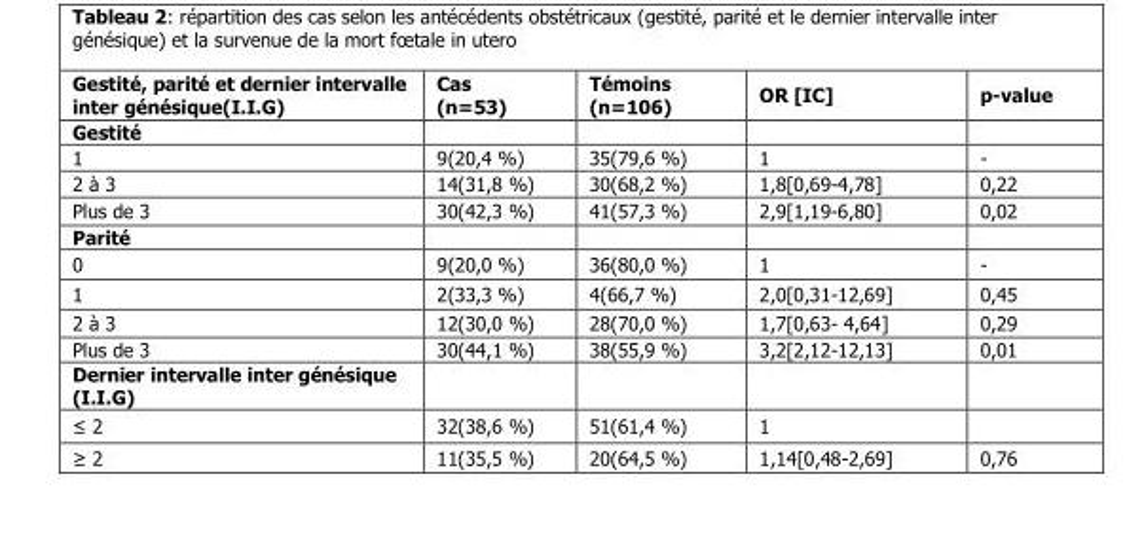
<table><thead><tr><td>Gestité, parité et dernier intervalle inter génésique(I.I.G)</td><td>Cas (n=53)</td><td>Témoins (n=106)</td><td>OR [IC]</td><td>p-value</td></tr></thead><tbody><tr><td colspan="5">Gestité</td></tr><tr><td>1</td><td>9(20,4 %)</td><td>35(79,6 %)</td><td>1</td><td>-</td></tr><tr><td>2 à 3</td><td>14(31,8 %)</td><td>30(68,2 %)</td><td>1,8[0,69-4,78]</td><td>0,22</td></tr><tr><td>Plus de 3</td><td>30(42,3 %)</td><td>41(57,3 %)</td><td>2,9[1,19-6,80]</td><td>0,02</td></tr><tr><td colspan="5">Parité</td></tr><tr><td>0</td><td>9(20,0 %)</td><td>36(80,0 %)</td><td>1</td><td>-</td></tr><tr><td>1</td><td>2(33,3 %)</td><td>4(66,7 %)</td><td>2,0[0,31-12,69]</td><td>0,45</td></tr><tr><td>2 à 3</td><td>12(30,0 %)</td><td>28(70,0 %)</td><td>1,7[0,63- 4,64]</td><td>0,29</td></tr><tr><td>Plus de 3</td><td>30(44,1 %)</td><td>38(55,9 %)</td><td>3,2[2,12-12,13]</td><td>0,01</td></tr><tr><td colspan="5">Dernier intervalle inter génésique (I.I.G)</td></tr><tr><td>≤ 2</td><td>32(38,6 %)</td><td>51(61,4 %)</td><td>1</td><td></td></tr><tr><td>≥ 2</td><td>11(35,5 %)</td><td>20(64,5 %)</td><td>1,14[0,48-2,69]</td><td>0,76</td></tr></tbody></table>